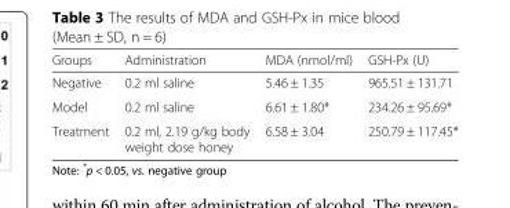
<table><thead><tr><td>Groups</td><td>Administration</td><td>MDA (nmol/ml)</td><td>GSH-Px (U)</td></tr></thead><tbody><tr><td>Negative</td><td>0.2 ml saline</td><td>5.46 ± 1.35</td><td>965.51 ± 131.71</td></tr><tr><td>Model</td><td>0.2 ml saline</td><td>6.61 ± 1.80*</td><td>234.26 ± 95.69*</td></tr><tr><td>Treatment</td><td>0.2 ml, 2.19 g/kg body weight dose honey</td><td>6.58 ± 3.04</td><td>250.79 ± 117.45*</td></tr></tbody></table>